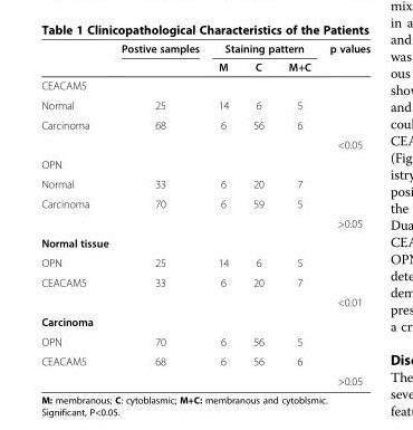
<table><thead><tr><td rowspan="2"></td><td rowspan="2">Postive samples</td><td colspan="3">Staining pattern</td><td rowspan="2">p values</td></tr><tr><td>M</td><td>C</td><td>M+C</td></tr></thead><tbody><tr><td colspan="6">CEACAM5</td></tr><tr><td>Normal</td><td>25</td><td>14</td><td>6</td><td>5</td><td></td></tr><tr><td rowspan="2">Carcinoma</td><td>68</td><td>6</td><td>56</td><td>6</td><td></td></tr><tr><td></td><td></td><td></td><td></td><td>&lt;0.05</td></tr><tr><td colspan="6">OPN</td></tr><tr><td>Normal</td><td>33</td><td>6</td><td>20</td><td>7</td><td></td></tr><tr><td rowspan="2">Carcinoma</td><td>70</td><td>6</td><td>59</td><td>5</td><td></td></tr><tr><td></td><td></td><td></td><td></td><td>&gt;0.05</td></tr><tr><td colspan="6">Normal tissue</td></tr><tr><td>OPN</td><td>25</td><td>14</td><td>6</td><td>5</td><td></td></tr><tr><td rowspan="2">CEACAM5</td><td>33</td><td>6</td><td>20</td><td>7</td><td></td></tr><tr><td></td><td></td><td></td><td></td><td>&lt;0.01</td></tr><tr><td colspan="6">Carcinoma</td></tr><tr><td>OPN</td><td>70</td><td>6</td><td>56</td><td>5</td><td></td></tr><tr><td rowspan="2">CEACAM5</td><td>68</td><td>6</td><td>56</td><td>6</td><td></td></tr><tr><td></td><td></td><td></td><td></td><td>&gt;0.05</td></tr></tbody></table>